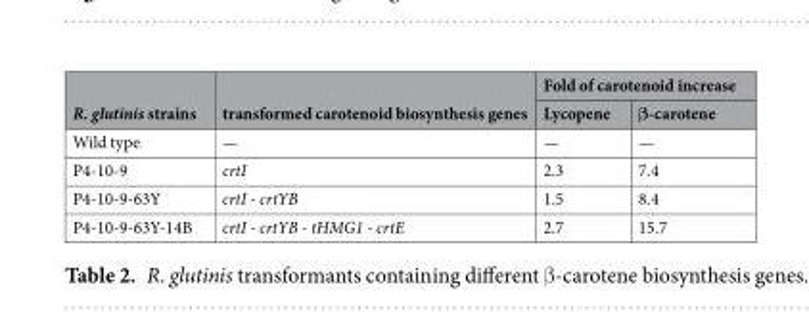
<table><thead><tr><td rowspan="2">R. glutinis strains</td><td rowspan="2">transformed carotenoid biosynthesis genes</td><td colspan="2">Fold of carotenoid increase</td></tr><tr><td>Lycopene</td><td>β-carotene</td></tr></thead><tbody><tr><td>Wild type</td><td>—</td><td>—</td><td>—</td></tr><tr><td>P4-10-9</td><td>crtI</td><td>2.3</td><td>7.4</td></tr><tr><td>P4-10-9-63Y</td><td>crtI - crtYB</td><td>1.5</td><td>8.4</td></tr><tr><td>P4-10-9-63Y-14B</td><td>crtI - crtYB - tHMG1 - crtE</td><td>2.7</td><td>15.7</td></tr></tbody></table>